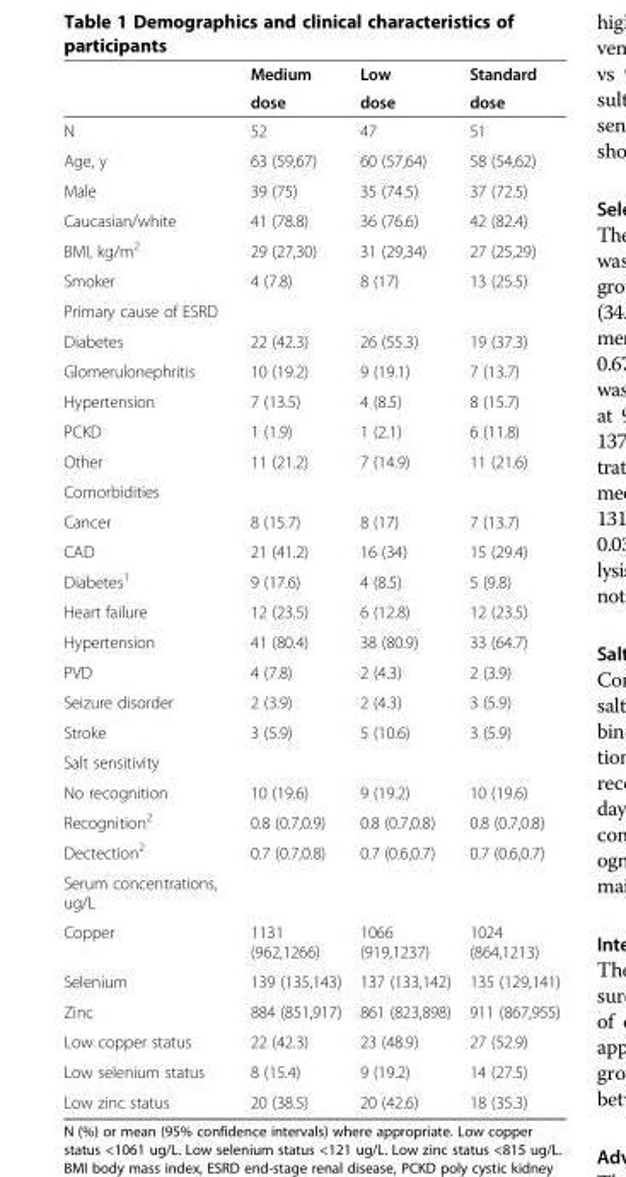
<table><thead><tr><td rowspan="2"></td><td rowspan="2">Medium dose</td><td rowspan="2">Low dose</td><td rowspan="2">Standard dose</td></tr><tr></tr></thead><tbody><tr><td>N</td><td>52</td><td>47</td><td>51</td></tr><tr><td>Age, y</td><td>63 (59,67)</td><td>60 (57,64)</td><td>58 (54,62)</td></tr><tr><td>Male</td><td>39 (75)</td><td>35 (74.5)</td><td>37 (72.5)</td></tr><tr><td>Caucasian/white</td><td>41 (78.8)</td><td>36 (76.6)</td><td>42 (82.4)</td></tr><tr><td>BMI, kg/m<sup>2</sup></td><td>29 (27,30)</td><td>31 (29,34)</td><td>27 (25,29)</td></tr><tr><td>Smoker</td><td>4 (7.8)</td><td>8 (17)</td><td>13 (25.5)</td></tr><tr><td colspan="4">Primary cause of ESRD</td></tr><tr><td>Diabetes</td><td>22 (42.3)</td><td>26 (55.3)</td><td>19 (37.3)</td></tr><tr><td>Glomerulonephritis</td><td>10 (19.2)</td><td>9 (19.1)</td><td>7 (13.7)</td></tr><tr><td>Hypertension</td><td>7 (13.5)</td><td>4 (8.5)</td><td>8 (15.7)</td></tr><tr><td>PCKD</td><td>1 (1.9)</td><td>1 (2.1)</td><td>6 (11.8)</td></tr><tr><td>Other</td><td>11 (21.2)</td><td>7 (14.9)</td><td>11 (21.6)</td></tr><tr><td colspan="4">Comorbidities</td></tr><tr><td>Cancer</td><td>8 (15.7)</td><td>8 (17)</td><td>7 (13.7)</td></tr><tr><td>CAD</td><td>21 (41.2)</td><td>16 (34)</td><td>15 (29.4)</td></tr><tr><td>Diabetes<sup>1</sup></td><td>9 (17.6)</td><td>4 (8.5)</td><td>5 (9.8)</td></tr><tr><td>Heart failure</td><td>12 (23.5)</td><td>6 (12.8)</td><td>12 (23.5)</td></tr><tr><td>Hypertension</td><td>41 (80.4)</td><td>38 (80.9)</td><td>33 (64.7)</td></tr><tr><td>PVD</td><td>4 (7.8)</td><td>2 (4.3)</td><td>2 (3.9)</td></tr><tr><td>Seizure disorder</td><td>2 (3.9)</td><td>2 (4.3)</td><td>3 (5.9)</td></tr><tr><td>Stroke</td><td>3 (5.9)</td><td>5 (10.6)</td><td>3 (5.9)</td></tr><tr><td colspan="4">Salt sensitivity</td></tr><tr><td>No recognition</td><td>10 (19.6)</td><td>9 (19.2)</td><td>10 (19.6)</td></tr><tr><td>Recognition<sup>2</sup></td><td>0.8 (0.7,0.9)</td><td>0.8 (0.7,0.8)</td><td>0.8 (0.7,0.8)</td></tr><tr><td>Dectection<sup>2</sup></td><td>0.7 (0.7,0.8)</td><td>0.7 (0.6,0.7)</td><td>0.7 (0.6,0.7)</td></tr><tr><td colspan="4">Serum concentrations, ug/L</td></tr><tr><td>Copper</td><td>1131 (962,1266)</td><td>1066 (919,1237)</td><td>1024 (864,1213)</td></tr><tr><td>Selenium</td><td>139 (135,143)</td><td>137 (133,142)</td><td>135 (129,141)</td></tr><tr><td>Zinc</td><td>884 (851,917)</td><td>861 (823,898)</td><td>911 (867,955)</td></tr><tr><td>Low copper status</td><td>22 (42.3)</td><td>23 (48.9)</td><td>27 (52.9)</td></tr><tr><td>Low selenium status</td><td>8 (15.4)</td><td>9 (19.2)</td><td>14 (27.5)</td></tr><tr><td>Low zinc status</td><td>20 (38.5)</td><td>20 (42.6)</td><td>18 (35.3)</td></tr></tbody></table>